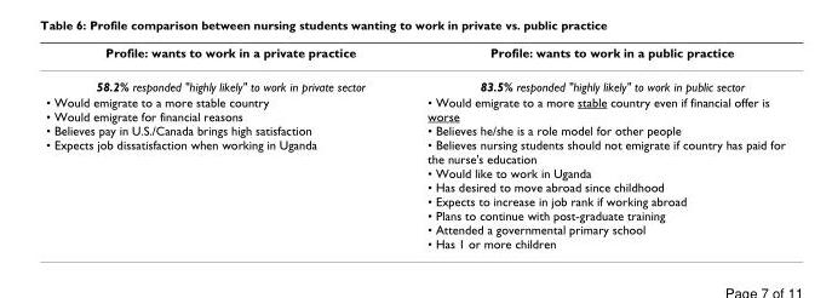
<table><thead><tr><td>Profile: wants to work in a private practice</td><td>Profile: wants to work in a public practice</td></tr></thead><tbody><tr><td>58.2% responded &quot;highly likely&quot; to work in private sector</td><td>83.5% responded &quot;highly likely&quot; to work in public sector</td></tr><tr><td>• Would emigrate to a more stable country • Would emigrate for financial reasons • Believes pay in U.S./Canada brings high satisfaction • Expects job dissatisfaction when working in Uganda</td><td>• Would emigrate to a more stable country even if financial offer is worse • Believes he/she is a role model for other people • Believes nursing students should not emigrate if country has paid for the nurse&#x27;s education • Would like to work in Uganda • Has desired to move abroad since childhood • Expects to increase in job rank if working abroad • Plans to continue with post-graduate training • Attended a governmental primary school • Has 1 or more children</td></tr></tbody></table>